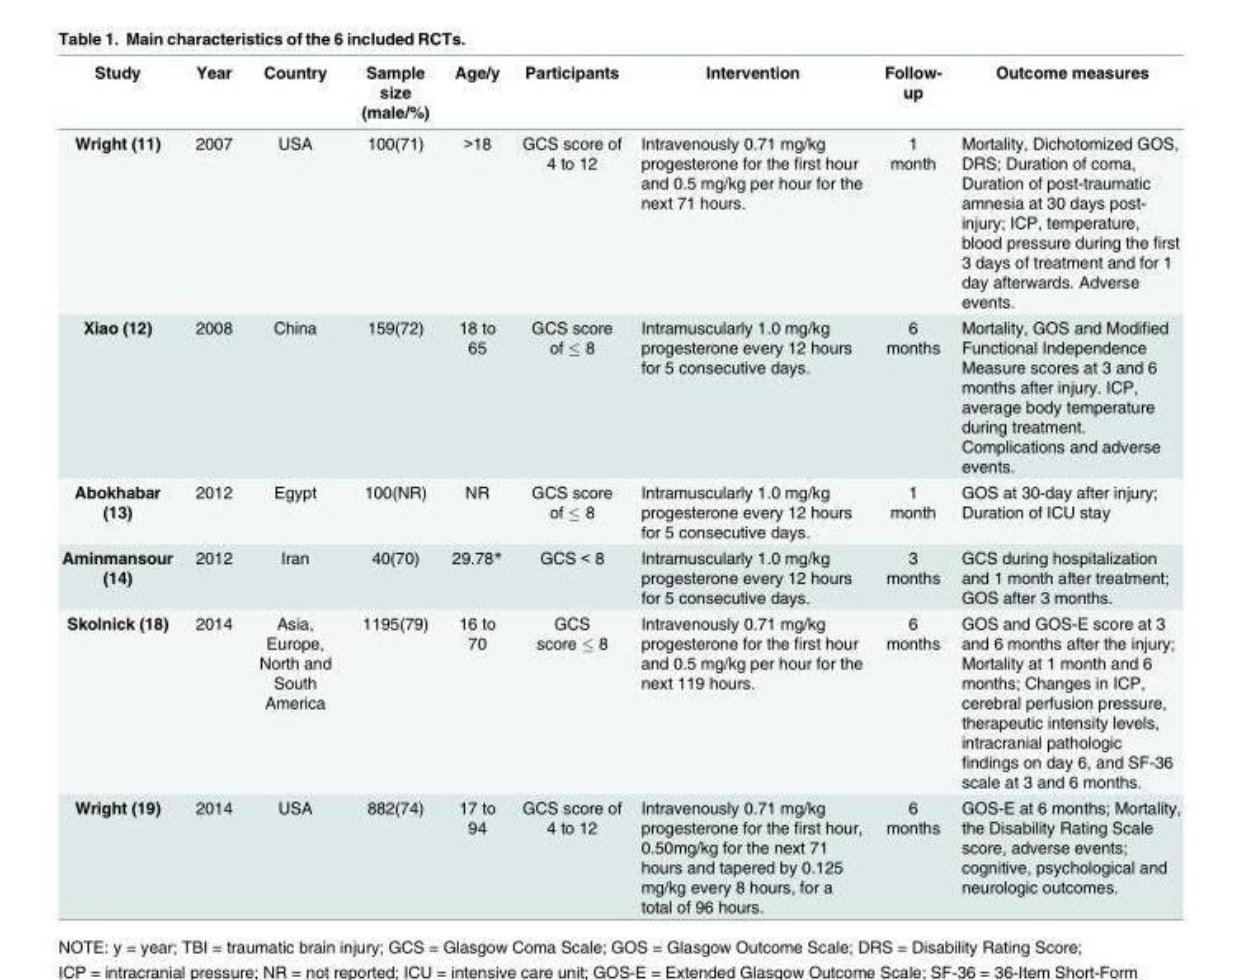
<table><thead><tr><td>Study</td><td>Year</td><td>Country</td><td>Sample size (male/%)</td><td>Age/y</td><td>Participants</td><td>Intervention</td><td>Follow- up</td><td>Outcome measures</td></tr></thead><tbody><tr><td>Wright (11)</td><td>2007</td><td>USA</td><td>100(71)</td><td>&gt;18</td><td>GCS score of 4 to 12</td><td>Intravenously 0.71 mg/kg progesterone for the first hour and 0.5 mg/kg per hour for the next 71 hours.</td><td>1 month</td><td>Mortality, Dichotomized GOS, DRS; Duration of coma, Duration of post-traumatic amnesia at 30 days post- injury; ICP, temperature, blood pressure during the first 3 days of treatment and for 1 day afterwards. Adverse events.</td></tr><tr><td>Xiao (12)</td><td>2008</td><td>China</td><td>159(72)</td><td>18 to 65</td><td>GCS score of ≤ 8</td><td>Intramuscularly 1.0 mg/kg progesterone every 12 hours for 5 consecutive days.</td><td>6 months</td><td>Mortality, GOS and Modified Functional Independence Measure scores at 3 and 6 months after injury. ICP, average body temperature during treatment. Complications and adverse events.</td></tr><tr><td>Abokhabar (13)</td><td>2012</td><td>Egypt</td><td>100(NR)</td><td>NR</td><td>GCS score of ≤ 8</td><td>Intramuscularly 1.0 mg/kg progesterone every 12 hours for 5 consecutive days.</td><td>1 month</td><td>GOS at 30-day after injury; Duration of ICU stay</td></tr><tr><td>Aminmansour (14)</td><td>2012</td><td>Iran</td><td>40(70)</td><td>29.78*</td><td>GCS &lt; 8</td><td>Intramuscularly 1.0 mg/kg progesterone every 12 hours for 5 consecutive days.</td><td>3 months</td><td>GCS during hospitalization and 1 month after treatment; GOS after 3 months.</td></tr><tr><td>Skolnick (18)</td><td>2014</td><td>Asia, Europe, North and South America</td><td>1195(79)</td><td>16 to 70</td><td>GCS score ≤ 8</td><td>Intravenously 0.71 mg/kg progesterone for the first hour and 0.5 mg/kg per hour for the next 119 hours.</td><td>6 months</td><td>GOS and GOS-E score at 3 and 6 months after the injury; Mortality at 1 month and 6 months; Changes in ICP, cerebral perfusion pressure, therapeutic intensity levels, intracranial pathologic findings on day 6, and SF-36 scale at 3 and 6 months.</td></tr><tr><td>Wright (19)</td><td>2014</td><td>USA</td><td>882(74)</td><td>17 to 94</td><td>GCS score of 4 to 12</td><td>Intravenously 0.71 mg/kg progesterone for the first hour, 0.50mg/kg for the next 71 hours and tapered by 0.125 mg/kg every 8 hours, for a total of 96 hours.</td><td>6 months</td><td>GOS-E at 6 months; Mortality, the Disability Rating Scale score, adverse events; cognitive, psychological and neurologic outcomes.</td></tr></tbody></table>